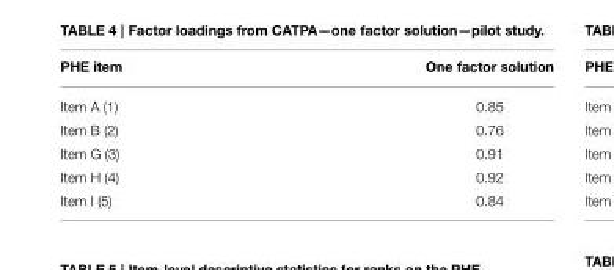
<table><thead><tr><td>PHE item</td><td>One factor solution</td></tr></thead><tbody><tr><td>Item A (1)</td><td>0.85</td></tr><tr><td>Item B (2)</td><td>0.76</td></tr><tr><td>Item G (3)</td><td>0.91</td></tr><tr><td>Item H (4)</td><td>0.92</td></tr><tr><td>Item I (5)</td><td>0.84</td></tr></tbody></table>